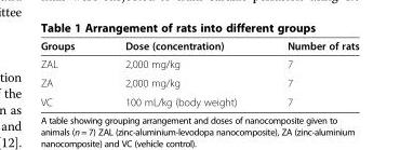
<table><thead><tr><td>Groups</td><td>Dose (concentration)</td><td>Number of rats</td></tr></thead><tbody><tr><td>ZAL</td><td>2,000 mg/kg</td><td>7</td></tr><tr><td>ZA</td><td>2,000 mg/kg</td><td>7</td></tr><tr><td>VC</td><td>100 mL/kg (body weight)</td><td>7</td></tr></tbody></table>